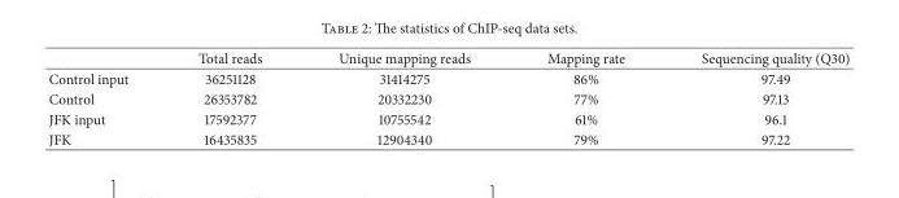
<table><thead><tr><td></td><td>Total reads</td><td>Unique mapping reads</td><td>Mapping rate</td><td>Sequencing quality (Q30)</td></tr></thead><tbody><tr><td>Control input</td><td>36251128</td><td>31414275</td><td>86%</td><td>97.49</td></tr><tr><td>Control</td><td>26353782</td><td>20332230</td><td>77%</td><td>97.13</td></tr><tr><td>JFK input</td><td>17592377</td><td>10755542</td><td>61%</td><td>96.1</td></tr><tr><td>JFK</td><td>16435835</td><td>12904340</td><td>79%</td><td>97.22</td></tr></tbody></table>